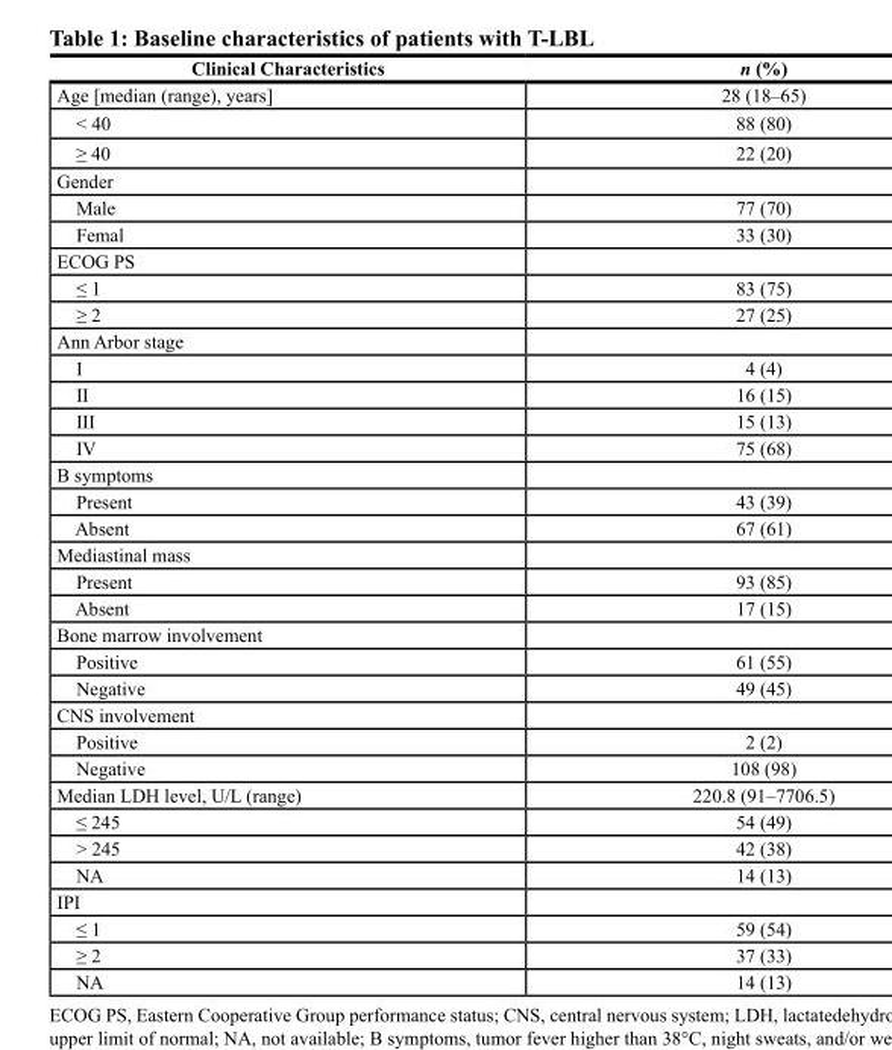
<table><thead><tr><td>Clinical Characteristics</td><td>n (%)</td></tr></thead><tbody><tr><td>Age [median (range), years]</td><td>28 (18–65)</td></tr><tr><td>&lt; 40</td><td>88 (80)</td></tr><tr><td>≥ 40</td><td>22 (20)</td></tr><tr><td colspan="2">Gender</td></tr><tr><td>Male</td><td>77 (70)</td></tr><tr><td>Femal</td><td>33 (30)</td></tr><tr><td colspan="2">ECOG PS</td></tr><tr><td>≤ 1</td><td>83 (75)</td></tr><tr><td>≥ 2</td><td>27 (25)</td></tr><tr><td colspan="2">Ann Arbor stage</td></tr><tr><td>I</td><td>4 (4)</td></tr><tr><td>II</td><td>16 (15)</td></tr><tr><td>III</td><td>15 (13)</td></tr><tr><td>IV</td><td>75 (68)</td></tr><tr><td colspan="2">B symptoms</td></tr><tr><td>Present</td><td>43 (39)</td></tr><tr><td>Absent</td><td>67 (61)</td></tr><tr><td colspan="2">Mediastinal mass</td></tr><tr><td>Present</td><td>93 (85)</td></tr><tr><td>Absent</td><td>17 (15)</td></tr><tr><td colspan="2">Bone marrow involvement</td></tr><tr><td>Positive</td><td>61 (55)</td></tr><tr><td>Negative</td><td>49 (45)</td></tr><tr><td colspan="2">CNS involvement</td></tr><tr><td>Positive</td><td>2 (2)</td></tr><tr><td>Negative</td><td>108 (98)</td></tr><tr><td>Median LDH level, U/L (range)</td><td>220.8 (91–7706.5)</td></tr><tr><td>≤ 245</td><td>54 (49)</td></tr><tr><td>&gt; 245</td><td>42 (38)</td></tr><tr><td>NA</td><td>14 (13)</td></tr><tr><td colspan="2">IPI</td></tr><tr><td>≤ 1</td><td>59 (54)</td></tr><tr><td>≥ 2</td><td>37 (33)</td></tr><tr><td>NA</td><td>14 (13)</td></tr></tbody></table>